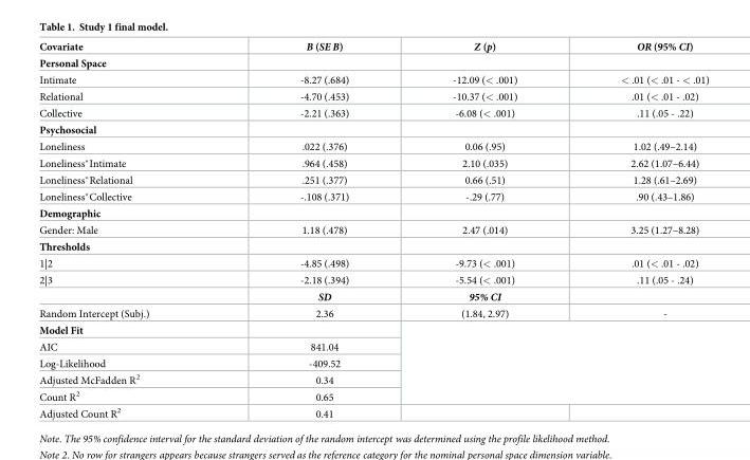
<table><thead><tr><td>Covariate</td><td>B (SE B)</td><td>Z (p)</td><td>OR (95% CI)</td></tr></thead><tbody><tr><td colspan="4">Personal Space</td></tr><tr><td>Intimate</td><td>-8.27 (.684)</td><td>-12.09 (&lt; .001)</td><td>&lt; .01 (&lt; .01 - &lt; .01)</td></tr><tr><td>Relational</td><td>-4.70 (.453)</td><td>-10.37 (&lt; .001)</td><td>.01 (&lt; .01 - .02)</td></tr><tr><td>Collective</td><td>-2.21 (.363)</td><td>-6.08 (&lt; .001)</td><td>.11 (.05 - .22)</td></tr><tr><td colspan="4">Psychosocial</td></tr><tr><td>Loneliness</td><td>.022 (.376)</td><td>0.06 (.95)</td><td>1.02 (.49–2.14)</td></tr><tr><td>Loneliness*Intimate</td><td>.964 (.458)</td><td>2.10 (.035)</td><td>2.62 (1.07–6.44)</td></tr><tr><td>Loneliness*Relational</td><td>.251 (.377)</td><td>0.66 (.51)</td><td>1.28 (.61–2.69)</td></tr><tr><td>Loneliness*Collective</td><td>-.108 (.371)</td><td>-.29 (.77)</td><td>.90 (.43–1.86)</td></tr><tr><td colspan="4">Demographic</td></tr><tr><td>Gender: Male</td><td>1.18 (.478)</td><td>2.47 (.014)</td><td>3.25 (1.27–8.28)</td></tr><tr><td colspan="4">Thresholds</td></tr><tr><td>1|2</td><td>-4.85 (.498)</td><td>-9.73 (&lt; .001)</td><td>.01 (&lt; .01 - .02)</td></tr><tr><td rowspan="2">2|3</td><td>-2.18 (.394)</td><td>-5.54 (&lt; .001)</td><td>.11 (.05 - .24)</td></tr><tr><td>SD</td><td>95% CI</td><td></td></tr><tr><td>Random Intercept (Subj.)</td><td>2.36</td><td>(1.84, 2.97)</td><td>-</td></tr><tr><td colspan="2">Model Fit</td><td rowspan="5" colspan="2"></td></tr><tr><td>AIC</td><td>841.04</td></tr><tr><td>Log-Likelihood</td><td>-409.52</td></tr><tr><td>Adjusted McFadden R<sup>2</sup></td><td>0.34</td></tr><tr><td>Count R<sup>2</sup></td><td>0.65</td></tr><tr><td>Adjusted Count R<sup>2</sup></td><td>0.41</td><td></td><td></td></tr></tbody></table>